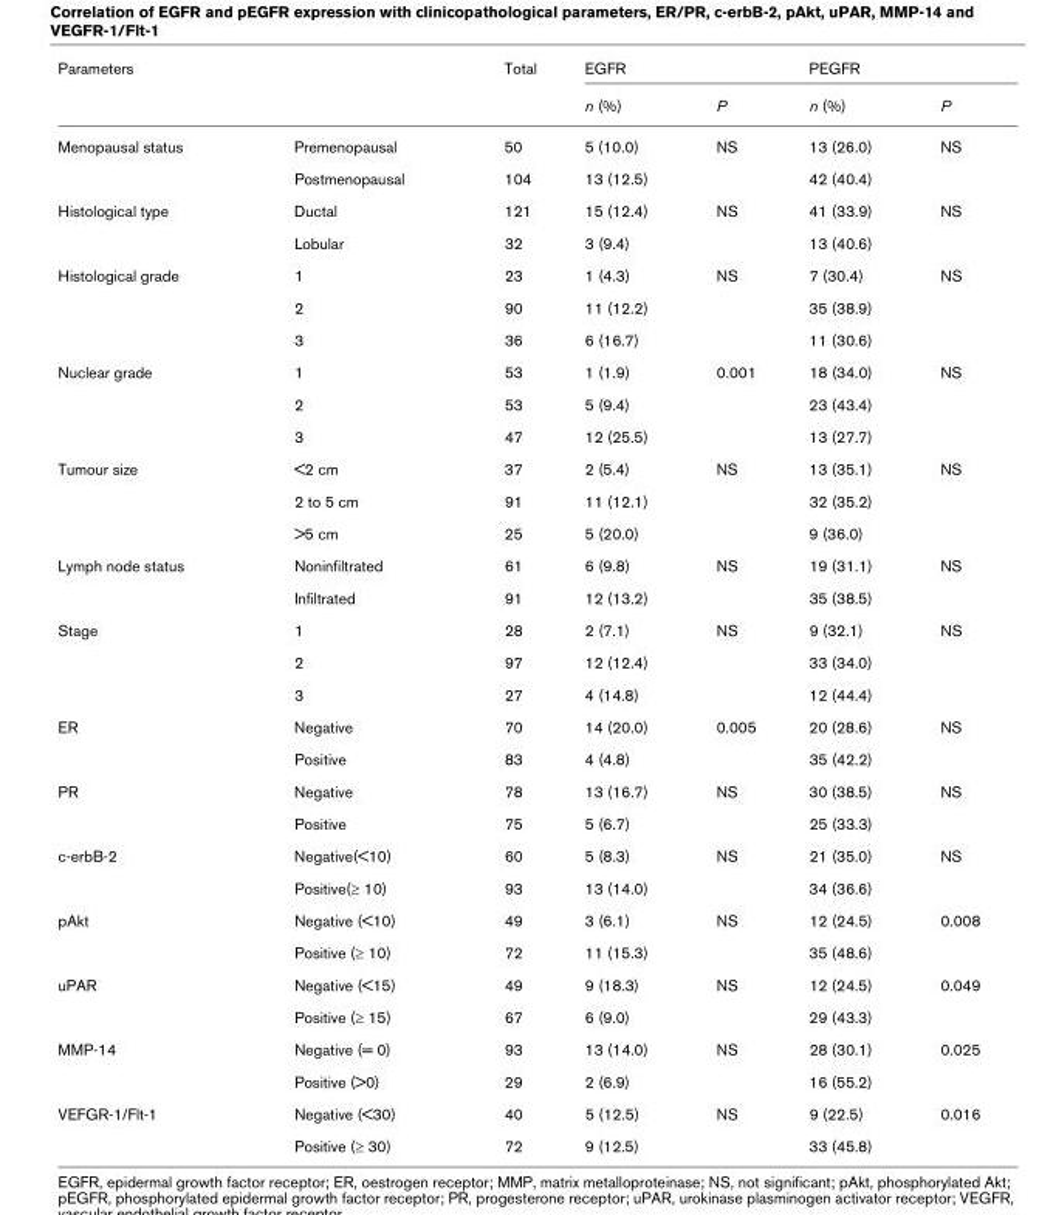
<table><thead><tr><td colspan="2">Parameters</td><td rowspan="2">Total</td><td colspan="2">EGFR</td><td colspan="2">PEGFR</td></tr><tr><td></td><td></td><td>n (%)</td><td>P</td><td>n (%)</td><td>P</td></tr></thead><tbody><tr><td rowspan="2">Menopausal status</td><td>Premenopausal</td><td>50</td><td>5 (10.0)</td><td>NS</td><td>13 (26.0)</td><td>NS</td></tr><tr><td>Postmenopausal</td><td>104</td><td>13 (12.5)</td><td></td><td>42 (40.4)</td><td></td></tr><tr><td rowspan="2">Histological type</td><td>Ductal</td><td>121</td><td>15 (12.4)</td><td>NS</td><td>41 (33.9)</td><td>NS</td></tr><tr><td>Lobular</td><td>32</td><td>3 (9.4)</td><td></td><td>13 (40.6)</td><td></td></tr><tr><td rowspan="3">Histological grade</td><td>1</td><td>23</td><td>1 (4.3)</td><td>NS</td><td>7 (30.4)</td><td>NS</td></tr><tr><td>2</td><td>90</td><td>11 (12.2)</td><td></td><td>35 (38.9)</td><td></td></tr><tr><td>3</td><td>36</td><td>6 (16.7)</td><td></td><td>11 (30.6)</td><td></td></tr><tr><td rowspan="3">Nuclear grade</td><td>1</td><td>53</td><td>1 (1.9)</td><td>0.001</td><td>18 (34.0)</td><td>NS</td></tr><tr><td>2</td><td>53</td><td>5 (9.4)</td><td></td><td>23 (43.4)</td><td></td></tr><tr><td>3</td><td>47</td><td>12 (25.5)</td><td></td><td>13 (27.7)</td><td></td></tr><tr><td rowspan="3">Tumour size</td><td>&lt;2 cm</td><td>37</td><td>2 (5.4)</td><td>NS</td><td>13 (35.1)</td><td>NS</td></tr><tr><td>2 to 5 cm</td><td>91</td><td>11 (12.1)</td><td></td><td>32 (35.2)</td><td></td></tr><tr><td>&gt;5 cm</td><td>25</td><td>5 (20.0)</td><td></td><td>9 (36.0)</td><td></td></tr><tr><td rowspan="2">Lymph node status</td><td>Noninfiltrated</td><td>61</td><td>6 (9.8)</td><td>NS</td><td>19 (31.1)</td><td>NS</td></tr><tr><td>Infiltrated</td><td>91</td><td>12 (13.2)</td><td></td><td>35 (38.5)</td><td></td></tr><tr><td rowspan="3">Stage</td><td>1</td><td>28</td><td>2 (7.1)</td><td>NS</td><td>9 (32.1)</td><td>NS</td></tr><tr><td>2</td><td>97</td><td>12 (12.4)</td><td></td><td>33 (34.0)</td><td></td></tr><tr><td>3</td><td>27</td><td>4 (14.8)</td><td></td><td>12 (44.4)</td><td></td></tr><tr><td rowspan="2">ER</td><td>Negative</td><td>70</td><td>14 (20.0)</td><td>0.005</td><td>20 (28.6)</td><td>NS</td></tr><tr><td>Positive</td><td>83</td><td>4 (4.8)</td><td></td><td>35 (42.2)</td><td></td></tr><tr><td rowspan="2">PR</td><td>Negative</td><td>78</td><td>13 (16.7)</td><td>NS</td><td>30 (38.5)</td><td>NS</td></tr><tr><td>Positive</td><td>75</td><td>5 (6.7)</td><td></td><td>25 (33.3)</td><td></td></tr><tr><td rowspan="2">c-erbB-2</td><td>Negative(&lt;10)</td><td>60</td><td>5 (8.3)</td><td>NS</td><td>21 (35.0)</td><td>NS</td></tr><tr><td>Positive(≥ 10)</td><td>93</td><td>13 (14.0)</td><td></td><td>34 (36.6)</td><td></td></tr><tr><td rowspan="2">pAkt</td><td>Negative (&lt;10)</td><td>49</td><td>3 (6.1)</td><td>NS</td><td>12 (24.5)</td><td>0.008</td></tr><tr><td>Positive (≥ 10)</td><td>72</td><td>11 (15.3)</td><td></td><td>35 (48.6)</td><td></td></tr><tr><td rowspan="2">uPAR</td><td>Negative (&lt;15)</td><td>49</td><td>9 (18.3)</td><td>NS</td><td>12 (24.5)</td><td>0.049</td></tr><tr><td>Positive (≥ 15)</td><td>67</td><td>6 (9.0)</td><td></td><td>29 (43.3)</td><td></td></tr><tr><td rowspan="2">MMP-14</td><td>Negative (= 0)</td><td>93</td><td>13 (14.0)</td><td>NS</td><td>28 (30.1)</td><td>0.025</td></tr><tr><td>Positive (&gt;0)</td><td>29</td><td>2 (6.9)</td><td></td><td>16 (55.2)</td><td></td></tr><tr><td rowspan="2">VEFGR-1/Flt-1</td><td>Negative (&lt;30)</td><td>40</td><td>5 (12.5)</td><td>NS</td><td>9 (22.5)</td><td>0.016</td></tr><tr><td>Positive (≥ 30)</td><td>72</td><td>9 (12.5)</td><td></td><td>33 (45.8)</td><td></td></tr></tbody></table>